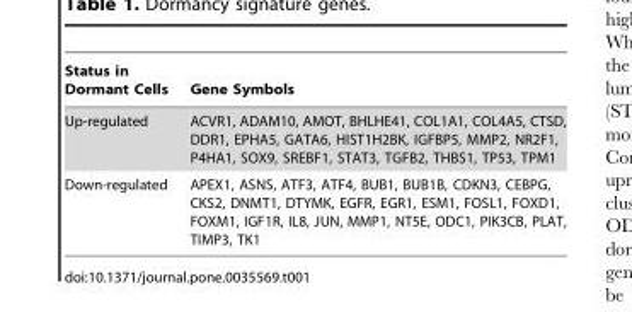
<table><thead><tr><td>Status in Dormant Cells</td><td>Gene Symbols</td></tr></thead><tbody><tr><td>Up-regulated</td><td>ACVR1, ADAM10, AMOT, BHLHE41, COL1A1, COL4A5, CTSD, DDR1, EPHA5, GATA6, HIST1H2BK, IGFBP5, MMP2, NR2F1, P4HA1, SOX9, SREBF1, STAT3, TGFB2, THBS1, TP53, TPM1</td></tr><tr><td>Down-regulated</td><td>APEX1, ASNS, ATF3, ATF4, BUB1, BUB1B, CDKN3, CEBPG, CKS2, DNMT1, DTYMK, EGFR, EGR1, ESM1, FOSL1, FOXD1, FOXM1, IGF1R, IL8, JUN, MMP1, NT5E, ODC1, PIK3CB, PLAT, TIMP3, TK1</td></tr></tbody></table>